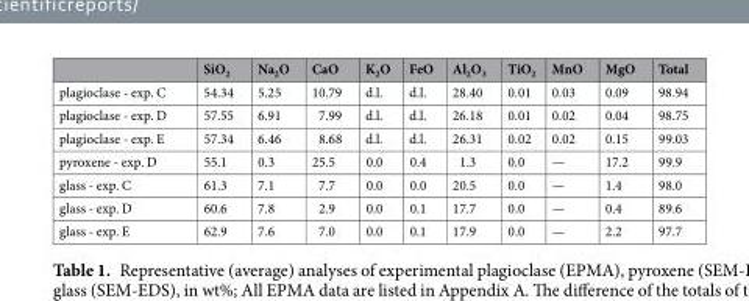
<table><thead><tr><td></td><td>SiO<sub>2</sub></td><td>Na<sub>2</sub>O</td><td>CaO</td><td>K<sub>2</sub>O</td><td>FeO</td><td>Al<sub>2</sub>O<sub>3</sub></td><td>TiO<sub>2</sub></td><td>MnO</td><td>MgO</td><td>Total</td></tr></thead><tbody><tr><td>plagioclase - exp. C</td><td>54.34</td><td>5.25</td><td>10.79</td><td>d.l.</td><td>d.l.</td><td>28.40</td><td>0.01</td><td>0.03</td><td>0.09</td><td>98.94</td></tr><tr><td>plagioclase - exp. D</td><td>57.55</td><td>6.91</td><td>7.99</td><td>d.l.</td><td>d.l.</td><td>26.18</td><td>0.01</td><td>0.02</td><td>0.04</td><td>98.75</td></tr><tr><td>plagioclase - exp. E</td><td>57.34</td><td>6.46</td><td>8.68</td><td>d.l.</td><td>d.l.</td><td>26.31</td><td>0.02</td><td>0.02</td><td>0.15</td><td>99.03</td></tr><tr><td>pyroxene - exp. D</td><td>55.1</td><td>0.3</td><td>25.5</td><td>0.0</td><td>0.4</td><td>1.3</td><td>0.0</td><td>—</td><td>17.2</td><td>99.9</td></tr><tr><td>glass - exp. C</td><td>61.3</td><td>7.1</td><td>7.7</td><td>0.0</td><td>0.0</td><td>20.5</td><td>0.0</td><td>—</td><td>1.4</td><td>98.0</td></tr><tr><td>glass - exp. D</td><td>60.6</td><td>7.8</td><td>2.9</td><td>0.0</td><td>0.1</td><td>17.7</td><td>0.0</td><td>—</td><td>0.4</td><td>89.6</td></tr><tr><td>glass - exp. E</td><td>62.9</td><td>7.6</td><td>7.0</td><td>0.0</td><td>0.1</td><td>17.9</td><td>0.0</td><td>—</td><td>2.2</td><td>97.7</td></tr></tbody></table>